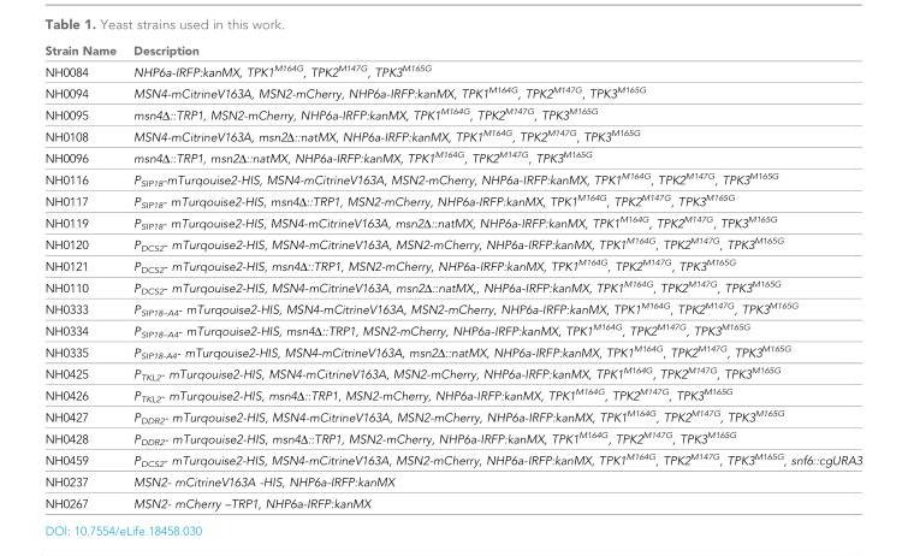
<table><thead><tr><td>Strain Name</td><td>Description</td></tr></thead><tbody><tr><td>NH0084</td><td>NHP6a-IRFP:kanMX, TPK1<sup>M164G</sup>, TPK2<sup>M147G</sup>, TPK3<sup>M165G</sup></td></tr><tr><td>NH0094</td><td>MSN4-mCitrineV163A, MSN2-mCherry, NHP6a-IRFP:kanMX, TPK1<sup>M164G</sup>, TPK2<sup>M147G</sup>, TPK3<sup>M165G</sup></td></tr><tr><td>NH0095</td><td>msn4Δ::TRP1, MSN2-mCherry, NHP6a-IRFP:kanMX, TPK1<sup>M164G</sup>, TPK2<sup>M147G</sup>, TPK3<sup>M165G</sup></td></tr><tr><td>NH0108</td><td>MSN4-mCitrineV163A, msn2Δ::natMX, NHP6a-IRFP:kanMX, TPK1<sup>M164G</sup>, TPK2<sup>M147G</sup>, TPK3<sup>M165G</sup></td></tr><tr><td>NH0096</td><td>msn4Δ::TRP1, msn2Δ::natMX, NHP6a-IRFP:kanMX, TPK1<sup>M164G</sup>, TPK2<sup>M147G</sup>, TPK3<sup>M165G</sup></td></tr><tr><td>NH0116</td><td>P<sub>SIP18</sub>-mTurqouise2-HIS, MSN4-mCitrineV163A, MSN2-mCherry, NHP6a-IRFP:kanMX, TPK1<sup>M164G</sup>, TPK2<sup>M147G</sup>, TPK3<sup>M165G</sup></td></tr><tr><td>NH0117</td><td>P<sub>SIP18</sub>- mTurqouise2-HIS, msn4Δ::TRP1, MSN2-mCherry, NHP6a-IRFP:kanMX, TPK1<sup>M164G</sup>, TPK2<sup>M147G</sup>, TPK3<sup>M165G</sup></td></tr><tr><td>NH0119</td><td>P<sub>SIP18</sub>- mTurqouise2-HIS, MSN4-mCitrineV163A, msn2Δ::natMX, NHP6a-IRFP:kanMX, TPK1<sup>M164G</sup>, TPK2<sup>M147G</sup>, TPK3<sup>M165G</sup></td></tr><tr><td>NH0120</td><td>P<sub>DCS2</sub>- mTurqouise2-HIS, MSN4-mCitrineV163A, MSN2-mCherry, NHP6a-IRFP:kanMX, TPK1<sup>M164G</sup>, TPK2<sup>M147G</sup>, TPK3<sup>M165G</sup></td></tr><tr><td>NH0121</td><td>P<sub>DCS2</sub>- mTurqouise2-HIS, msn4Δ::TRP1, MSN2-mCherry, NHP6a-IRFP:kanMX, TPK1<sup>M164G</sup>, TPK2<sup>M147G</sup>, TPK3<sup>M165G</sup></td></tr><tr><td>NH0110</td><td>P<sub>DCS2</sub>- mTurqouise2-HIS, MSN4-mCitrineV163A, msn2Δ::natMX,, NHP6a-IRFP:kanMX, TPK1<sup>M164G</sup>, TPK2<sup>M147G</sup>, TPK3<sup>M165G</sup></td></tr><tr><td>NH0333</td><td>PSIP18–A4- mTurqouise2-HIS, MSN4-mCitrineV163A, MSN2-mCherry, NHP6a-IRFP:kanMX, TPK1M164G, TPK2M147G, TPK3M165G</td></tr><tr><td>NH0334</td><td>PSIP18–A4- mTurqouise2-HIS, msn4D::TRP1, MSN2-mCherry, NHP6a-IRFP:kanMX, TPK1M164G, TPK2M147G, TPK3M165G</td></tr><tr><td>NH0335</td><td>P<sub>SIP18-A4</sub>- mTurqouise2-HIS, MSN4-mCitrineV163A, msn2Δ::natMX, NHP6a-IRFP:kanMX, TPK1<sup>M164G</sup>, TPK2<sup>M147G</sup>, TPK3<sup>M165G</sup></td></tr><tr><td>NH0425</td><td>P<sub>TKL2</sub>- mTurqouise2-HIS, MSN4-mCitrineV163A, MSN2-mCherry, NHP6a-IRFP:kanMX, TPK1<sup>M164G</sup>, TPK2<sup>M147G</sup>, TPK3<sup>M165G</sup></td></tr><tr><td>NH0426</td><td>P<sub>TKL2</sub>- mTurqouise2-HIS, msn4Δ::TRP1, MSN2-mCherry, NHP6a-IRFP:kanMX, TPK1<sup>M164G</sup>, TPK2<sup>M147G</sup>, TPK3<sup>M165G</sup></td></tr><tr><td>NH0427</td><td>P<sub>DDR2</sub>- mTurqouise2-HIS, MSN4-mCitrineV163A, MSN2-mCherry, NHP6a-IRFP:kanMX, TPK1<sup>M164G</sup>, TPK2<sup>M147G</sup>, TPK3<sup>M165G</sup></td></tr><tr><td>NH0428</td><td>P<sub>DDR2</sub>- mTurqouise2-HIS, msn4Δ::TRP1, MSN2-mCherry, NHP6a-IRFP:kanMX, TPK1<sup>M164G</sup>, TPK2<sup>M147G</sup>, TPK3<sup>M165G</sup></td></tr><tr><td>NH0459</td><td>P<sub>DCS2</sub>- mTurqouise2-HIS, MSN4-mCitrineV163A, MSN2-mCherry, NHP6a-IRFP:kanMX, TPK1<sup>M164G</sup>, TPK2<sup>M147G</sup>, TPK3<sup>M165G</sup>, snf6::cgURA3</td></tr><tr><td>NH0237</td><td>MSN2- mCitrineV163A -HIS, NHP6a-IRFP:kanMX</td></tr><tr><td>NH0267</td><td>MSN2- mCherry –TRP1, NHP6a-IRFP:kanMX</td></tr></tbody></table>